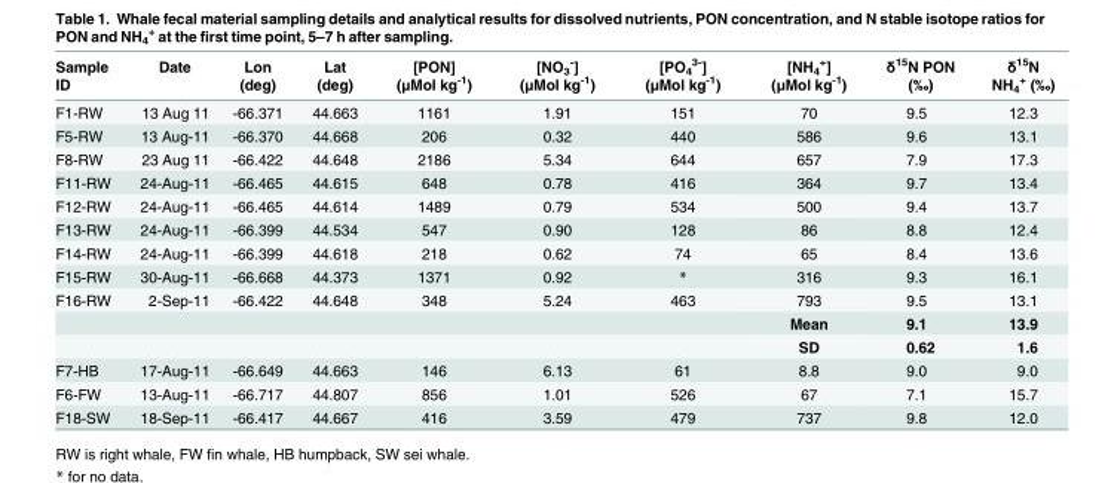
<table><thead><tr><td>Sample ID</td><td>Date</td><td>Lon (deg)</td><td>Lat (deg)</td><td>[PON] (μMol kg<sup>-1</sup>)</td><td>[NO<sub>3</sub> <sup>-</sup>] (μMol kg<sup>-1</sup>)</td><td>[PO<sub>4</sub> <sup>3-</sup>] (μMol kg<sup>-1</sup>)</td><td>[NH<sub>4</sub> <sup>+</sup>] (μMol kg<sup>-1</sup>)</td><td>δ<sup>15</sup>N PON (‰)</td><td>δ<sup>15</sup>N NH<sub>4</sub> <sup>+</sup> (‰)</td></tr></thead><tbody><tr><td>F1-RW</td><td>13 Aug 11</td><td>-66.371</td><td>44.663</td><td>1161</td><td>1.91</td><td>151</td><td>70</td><td>9.5</td><td>12.3</td></tr><tr><td>F5-RW</td><td>13 Aug-11</td><td>-66.370</td><td>44.668</td><td>206</td><td>0.32</td><td>440</td><td>586</td><td>9.6</td><td>13.1</td></tr><tr><td>F8-RW</td><td>23 Aug 11</td><td>-66.422</td><td>44.648</td><td>2186</td><td>5.34</td><td>644</td><td>657</td><td>7.9</td><td>17.3</td></tr><tr><td>F11-RW</td><td>24-Aug-11</td><td>-66.465</td><td>44.615</td><td>648</td><td>0.78</td><td>416</td><td>364</td><td>9.7</td><td>13.4</td></tr><tr><td>F12-RW</td><td>24-Aug-11</td><td>-66.465</td><td>44.614</td><td>1489</td><td>0.79</td><td>534</td><td>500</td><td>9.4</td><td>13.7</td></tr><tr><td>F13-RW</td><td>24-Aug-11</td><td>-66.399</td><td>44.534</td><td>547</td><td>0.90</td><td>128</td><td>86</td><td>8.8</td><td>12.4</td></tr><tr><td>F14-RW</td><td>24-Aug-11</td><td>-66.399</td><td>44.618</td><td>218</td><td>0.62</td><td>74</td><td>65</td><td>8.4</td><td>13.6</td></tr><tr><td>F15-RW</td><td>30-Aug-11</td><td>-66.668</td><td>44.373</td><td>1371</td><td>0.92</td><td>*</td><td>316</td><td>9.3</td><td>16.1</td></tr><tr><td rowspan="3">F16-RW</td><td>2-Sep-11</td><td>-66.422</td><td>44.648</td><td>348</td><td>5.24</td><td>463</td><td>793</td><td>9.5</td><td>13.1</td></tr><tr><td></td><td></td><td></td><td></td><td></td><td></td><td>Mean</td><td>9.1</td><td>13.9</td></tr><tr><td></td><td></td><td></td><td></td><td></td><td></td><td>SD</td><td>0.62</td><td>1.6</td></tr><tr><td>F7-HB</td><td>17-Aug-11</td><td>-66.649</td><td>44.663</td><td>146</td><td>6.13</td><td>61</td><td>8.8</td><td>9.0</td><td>9.0</td></tr><tr><td>F6-FW</td><td>13-Aug-11</td><td>-66.717</td><td>44.807</td><td>856</td><td>1.01</td><td>526</td><td>67</td><td>7.1</td><td>15.7</td></tr><tr><td>F18-SW</td><td>18-Sep-11</td><td>-66.417</td><td>44.667</td><td>416</td><td>3.59</td><td>479</td><td>737</td><td>9.8</td><td>12.0</td></tr></tbody></table>